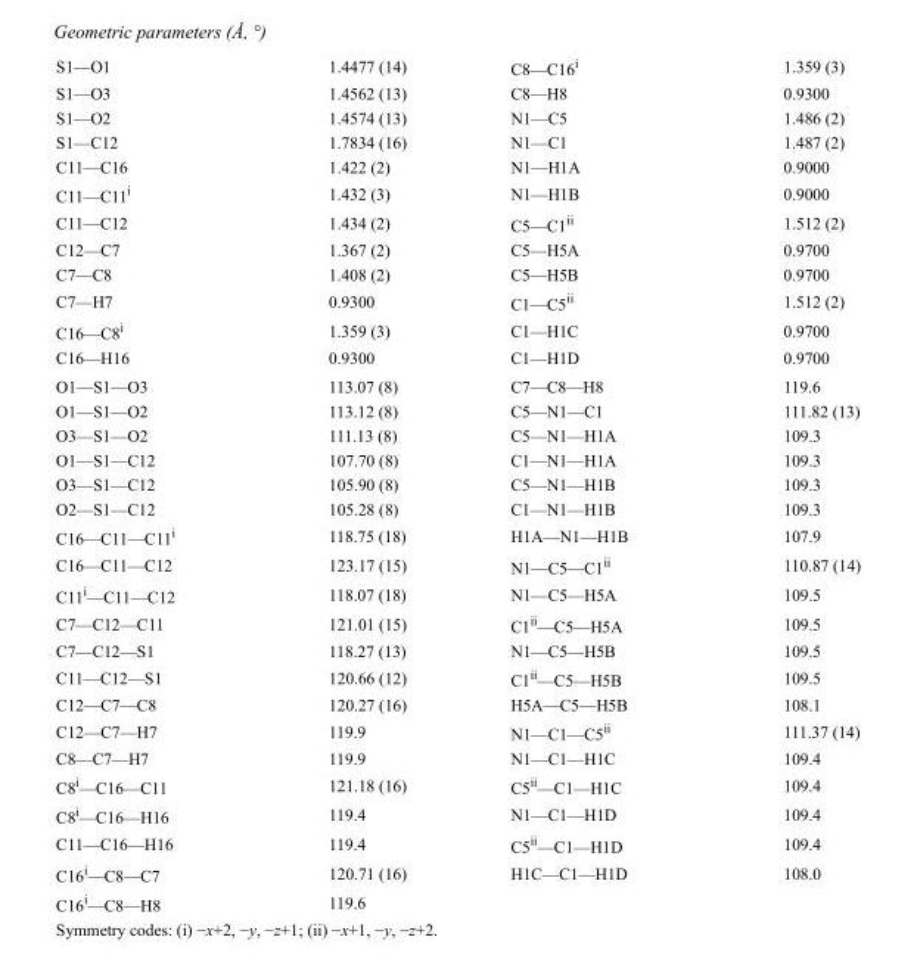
<table><tbody><tr><td>S1—O1</td><td>1.4477 (14)</td><td>C8—C16<sup>i</sup></td><td>1.359 (3)</td></tr><tr><td>S1—O3</td><td>1.4562 (13)</td><td>C8—H8</td><td>0.9300</td></tr><tr><td>S1—O2</td><td>1.4574 (13)</td><td>N1—C5</td><td>1.486 (2)</td></tr><tr><td>S1—C12</td><td>1.7834 (16)</td><td>N1—C1</td><td>1.487 (2)</td></tr><tr><td>C11—C16</td><td>1.422 (2)</td><td>N1—H1A</td><td>0.9000</td></tr><tr><td>C11—C11<sup>i</sup></td><td>1.432 (3)</td><td>N1—H1B</td><td>0.9000</td></tr><tr><td>C11—C12</td><td>1.434 (2)</td><td>C5—C1<sup>ii</sup></td><td>1.512 (2)</td></tr><tr><td>C12—C7</td><td>1.367 (2)</td><td>C5—H5A</td><td>0.9700</td></tr><tr><td>C7—C8</td><td>1.408 (2)</td><td>C5—H5B</td><td>0.9700</td></tr><tr><td>C7—H7</td><td>0.9300</td><td>C1—C5<sup>ii</sup></td><td>1.512 (2)</td></tr><tr><td>C16—C8<sup>i</sup></td><td>1.359 (3)</td><td>C1—H1C</td><td>0.9700</td></tr><tr><td>C16—H16</td><td>0.9300</td><td>C1—H1D</td><td>0.9700</td></tr><tr><td>O1—S1—O3</td><td>113.07 (8)</td><td>C7—C8—H8</td><td>119.6</td></tr><tr><td>O1—S1—O2</td><td>113.12 (8)</td><td>C5—N1—C1</td><td>111.82 (13)</td></tr><tr><td>O3—S1—O2</td><td>111.13 (8)</td><td>C5—N1—H1A</td><td>109.3</td></tr><tr><td>O1—S1—C12</td><td>107.70 (8)</td><td>C1—N1—H1A</td><td>109.3</td></tr><tr><td>O3—S1—C12</td><td>105.90 (8)</td><td>C5—N1—H1B</td><td>109.3</td></tr><tr><td>O2—S1—C12</td><td>105.28 (8)</td><td>C1—N1—H1B</td><td>109.3</td></tr><tr><td>C16—C11—C11<sup>i</sup></td><td>118.75 (18)</td><td>H1A—N1—H1B</td><td>107.9</td></tr><tr><td>C16—C11—C12</td><td>123.17 (15)</td><td>N1—C5—C1<sup>ii</sup></td><td>110.87 (14)</td></tr><tr><td>C11<sup>i</sup>—C11—C12</td><td>118.07 (18)</td><td>N1—C5—H5A</td><td>109.5</td></tr><tr><td>C7—C12—C11</td><td>121.01 (15)</td><td>C1<sup>ii</sup>—C5—H5A</td><td>109.5</td></tr><tr><td>C7—C12—S1</td><td>118.27 (13)</td><td>N1—C5—H5B</td><td>109.5</td></tr><tr><td>C11—C12—S1</td><td>120.66 (12)</td><td>C1<sup>ii</sup>—C5—H5B</td><td>109.5</td></tr><tr><td>C12—C7—C8</td><td>120.27 (16)</td><td>H5A—C5—H5B</td><td>108.1</td></tr><tr><td>C12—C7—H7</td><td>119.9</td><td>N1—C1—C5<sup>ii</sup></td><td>111.37 (14)</td></tr><tr><td>C8—C7—H7</td><td>119.9</td><td>N1—C1—H1C</td><td>109.4</td></tr><tr><td>C8<sup>i</sup>—C16—C11</td><td>121.18 (16)</td><td>C5<sup>ii</sup>—C1—H1C</td><td>109.4</td></tr><tr><td>C8<sup>i</sup>—C16—H16</td><td>119.4</td><td>N1—C1—H1D</td><td>109.4</td></tr><tr><td>C11—C16—H16</td><td>119.4</td><td>C5<sup>ii</sup>—C1—H1D</td><td>109.4</td></tr><tr><td>C16<sup>i</sup>—C8—C7</td><td>120.71 (16)</td><td>H1C—C1—H1D</td><td>108.0</td></tr><tr><td>C16<sup>i</sup>—C8—H8</td><td>119.6</td><td></td><td></td></tr></tbody></table>